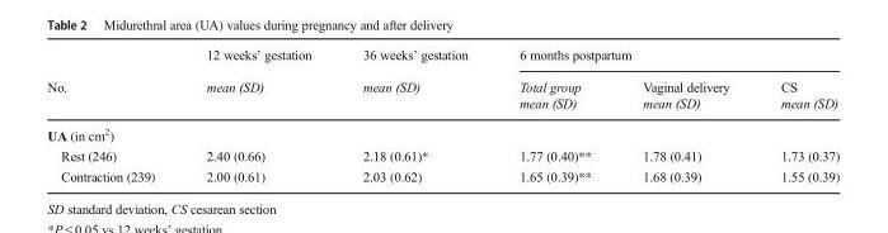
<table><thead><tr><td rowspan="3">No.</td><td rowspan="3">12 weeks’ gestation mean (SD)</td><td rowspan="3">36 weeks’ gestation mean (SD)</td><td colspan="3">6 months postpartum</td></tr><tr><td rowspan="2">Total group mean (SD)</td><td rowspan="2">Vaginal delivery mean (SD)</td><td rowspan="2">CS mean (SD)</td></tr><tr></tr></thead><tbody><tr><td colspan="6">UA (in cm<sup>2</sup>)</td></tr><tr><td>Rest (246)</td><td>2.40 (0.66)</td><td>2.18 (0.61)*</td><td>1.77 (0.40)**</td><td>1.78 (0.41)</td><td>1.73 (0.37)</td></tr><tr><td>Contraction (239)</td><td>2.00 (0.61)</td><td>2.03 (0.62)</td><td>1.65 (0.39)**</td><td>1.68 (0.39)</td><td>1.55 (0.39)</td></tr></tbody></table>